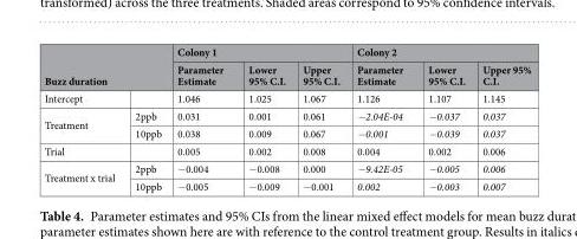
<table><thead><tr><td rowspan="2" colspan="2">Buzz duration</td><td colspan="3">Colony 1</td><td colspan="3">Colony 2</td></tr><tr><td rowspan="2">Parameter Estimate 1.046</td><td rowspan="2">Lower 95% C.I. 1.025</td><td rowspan="2">Upper 95% C.I. 1.067</td><td rowspan="2">Parameter Estimate 1.126</td><td rowspan="2">Lower 95% C.I. 1.107</td><td rowspan="2">Upper 95% C.I. 1.145</td></tr><tr><td>Intercept</td><td></td></tr></thead><tbody><tr><td rowspan="2">Treatment</td><td>2ppb</td><td>0.031</td><td>0.001</td><td>0.061</td><td>−2.04E-04</td><td>−0.037</td><td>0.037</td></tr><tr><td>10ppb</td><td>0.038</td><td>0.009</td><td>0.067</td><td>−0.001</td><td>−0.039</td><td>0.037</td></tr><tr><td>Trial</td><td></td><td>0.005</td><td>0.002</td><td>0.008</td><td>0.004</td><td>0.002</td><td>0.006</td></tr><tr><td rowspan="2">Treatment x trial</td><td>2ppb</td><td>−0.004</td><td>−0.008</td><td>0.000</td><td>−9.42E-05</td><td>−0.005</td><td>0.006</td></tr><tr><td>10ppb</td><td>−0.005</td><td>−0.009</td><td>−0.001</td><td>0.002</td><td>−0.003</td><td>0.007</td></tr></tbody></table>